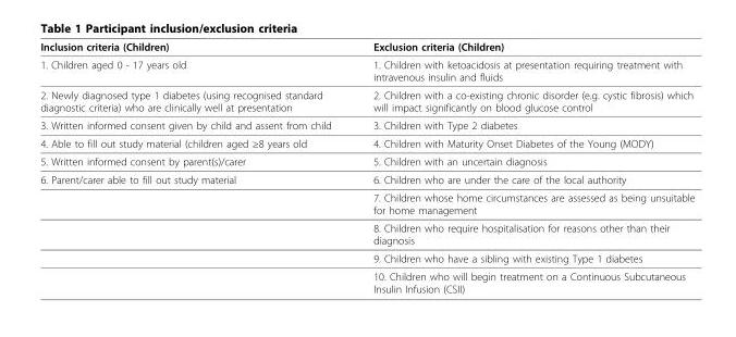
<table><thead><tr><td>Inclusion criteria (Children)</td><td>Exclusion criteria (Children)</td></tr></thead><tbody><tr><td>1. Children aged 0 - 17 years old</td><td>1. Children with ketoacidosis at presentation requiring treatment with intravenous insulin and fluids</td></tr><tr><td>2. Newly diagnosed type 1 diabetes (using recognised standard diagnostic criteria) who are clinically well at presentation</td><td>2. Children with a co-existing chronic disorder (e.g. cystic fibrosis) which will impact significantly on blood glucose control</td></tr><tr><td>3. Written informed consent given by child and assent from child</td><td>3. Children with Type 2 diabetes</td></tr><tr><td>4. Able to fill out study material (children aged ≥8 years old</td><td>4. Children with Maturity Onset Diabetes of the Young (MODY)</td></tr><tr><td>5. Written informed consent by parent(s)/carer</td><td>5. Children with an uncertain diagnosis</td></tr><tr><td rowspan="5">6. Parent/carer able to fill out study material</td><td>6. Children who are under the care of the local authority</td></tr><tr><td>7. Children whose home circumstances are assessed as being unsuitable for home management</td></tr><tr><td>8. Children who require hospitalisation for reasons other than their diagnosis</td></tr><tr><td>9. Children who have a sibling with existing Type 1 diabetes</td></tr><tr><td>10. Children who will begin treatment on a Continuous Subcutaneous Insulin Infusion (CSII)</td></tr></tbody></table>